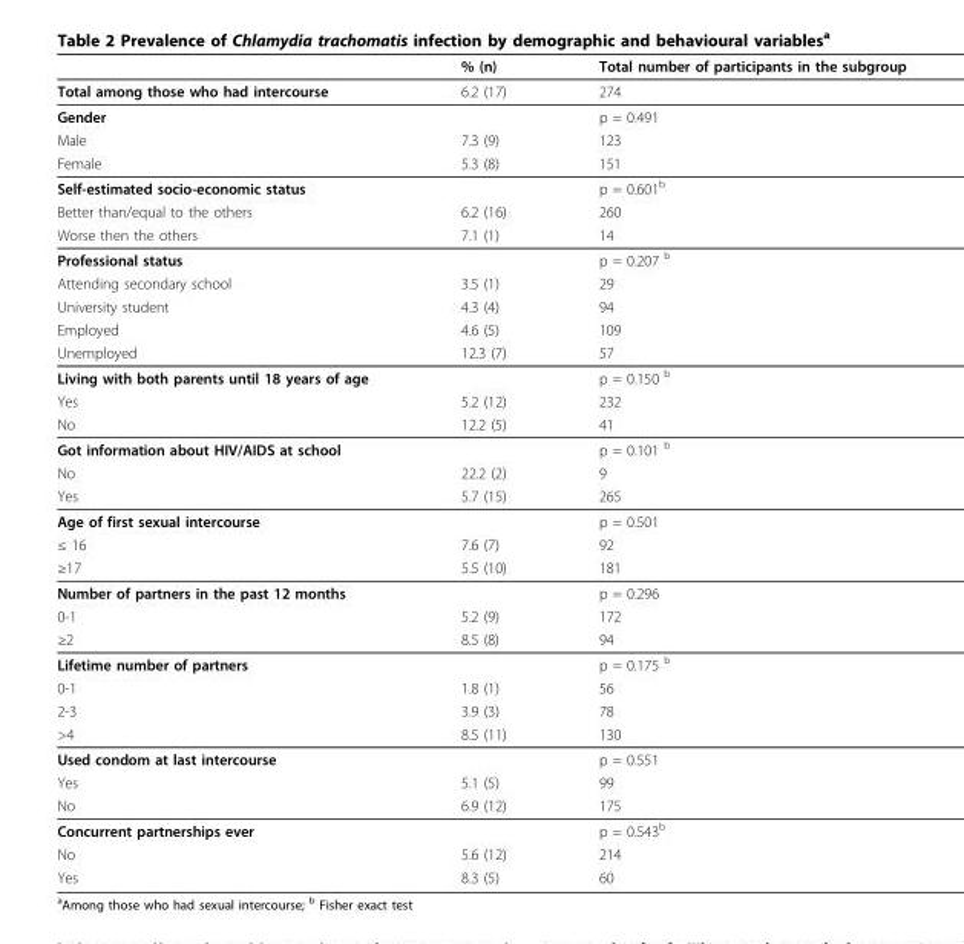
<table><thead><tr><td></td><td>% (n)</td><td>Total number of participants in the subgroup</td></tr></thead><tbody><tr><td>Total among those who had intercourse</td><td>6.2 (17)</td><td>274</td></tr><tr><td>Gender</td><td></td><td>p = 0.491</td></tr><tr><td>Male</td><td>7.3 (9)</td><td>123</td></tr><tr><td>Female</td><td>5.3 (8)</td><td>151</td></tr><tr><td>Self-estimated socio-economic status</td><td></td><td>p = 0.601<sup>b</sup></td></tr><tr><td>Better than/equal to the others</td><td>6.2 (16)</td><td>260</td></tr><tr><td>Worse then the others</td><td>7.1 (1)</td><td>14</td></tr><tr><td>Professional status</td><td></td><td>p = 0.207 <sup>b</sup></td></tr><tr><td>Attending secondary school</td><td>3.5 (1)</td><td>29</td></tr><tr><td>University student</td><td>4.3 (4)</td><td>94</td></tr><tr><td>Employed</td><td>4.6 (5)</td><td>109</td></tr><tr><td>Unemployed</td><td>12.3 (7)</td><td>57</td></tr><tr><td>Living with both parents until 18 years of age</td><td></td><td>p = 0.150 <sup>b</sup></td></tr><tr><td>Yes</td><td>5.2 (12)</td><td>232</td></tr><tr><td>No</td><td>12.2 (5)</td><td>41</td></tr><tr><td>Got information about HIV/AIDS at school</td><td></td><td>p = 0.101 <sup>b</sup></td></tr><tr><td>No</td><td>22.2 (2)</td><td>9</td></tr><tr><td>Yes</td><td>5.7 (15)</td><td>265</td></tr><tr><td>Age of first sexual intercourse</td><td></td><td>p = 0.501</td></tr><tr><td>≤ 16</td><td>7.6 (7)</td><td>92</td></tr><tr><td>≥17</td><td>5.5 (10)</td><td>181</td></tr><tr><td>Number of partners in the past 12 months</td><td></td><td>p = 0.296</td></tr><tr><td>0-1</td><td>5.2 (9)</td><td>172</td></tr><tr><td>≥2</td><td>8.5 (8)</td><td>94</td></tr><tr><td>Lifetime number of partners</td><td></td><td>p = 0.175 <sup>b</sup></td></tr><tr><td>0-1</td><td>1.8 (1)</td><td>56</td></tr><tr><td>2-3</td><td>3.9 (3)</td><td>78</td></tr><tr><td>&gt;4</td><td>8.5 (11)</td><td>130</td></tr><tr><td>Used condom at last intercourse</td><td></td><td>p = 0.551</td></tr><tr><td>Yes</td><td>5.1 (5)</td><td>99</td></tr><tr><td>No</td><td>6.9 (12)</td><td>175</td></tr><tr><td>Concurrent partnerships ever</td><td></td><td>p = 0.543<sup>b</sup></td></tr><tr><td>No</td><td>5.6 (12)</td><td>214</td></tr><tr><td>Yes</td><td>8.3 (5)</td><td>60</td></tr></tbody></table>